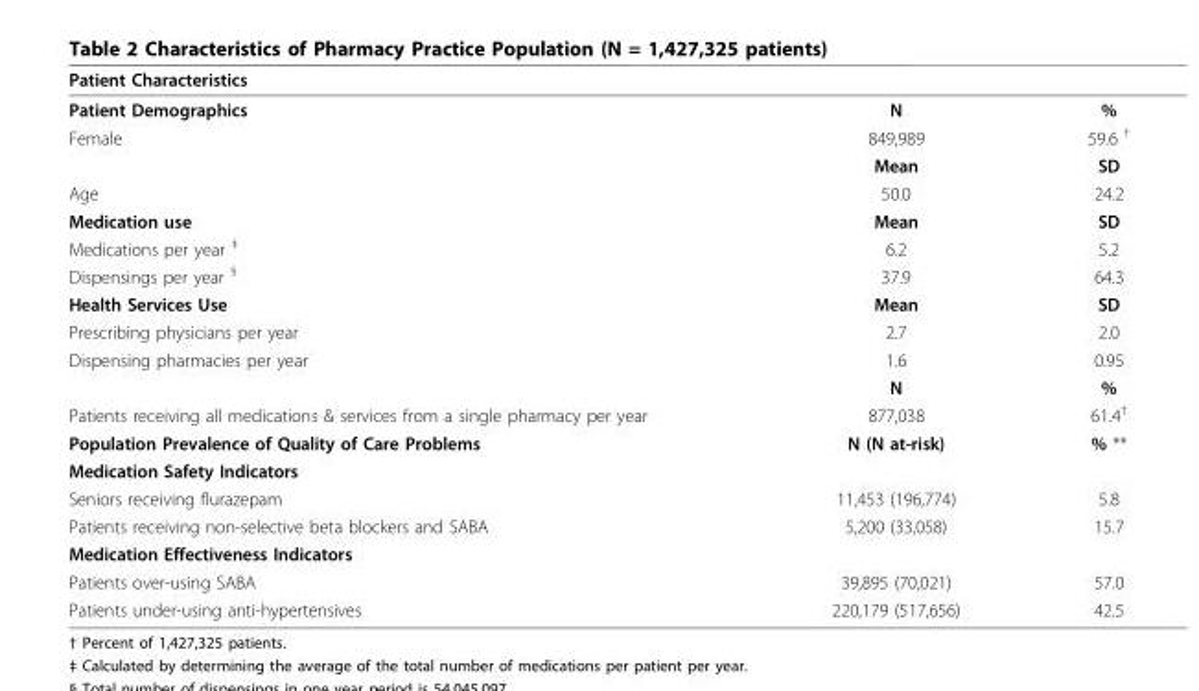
<table><thead><tr><td>Patient Characteristics</td><td></td><td></td></tr></thead><tbody><tr><td>Patient Demographics</td><td>N</td><td>%</td></tr><tr><td rowspan="2">Female</td><td>849,989</td><td>59.6 <sup>†</sup></td></tr><tr><td>Mean</td><td>SD</td></tr><tr><td>Age</td><td>50.0</td><td>24.2</td></tr><tr><td>Medication use</td><td>Mean</td><td>SD</td></tr><tr><td>Medications per year <sup>‡</sup></td><td>6.2</td><td>5.2</td></tr><tr><td>Dispensings per year <sup>§</sup></td><td>37.9</td><td>64.3</td></tr><tr><td>Health Services Use</td><td>Mean</td><td>SD</td></tr><tr><td>Prescribing physicians per year</td><td>2.7</td><td>2.0</td></tr><tr><td rowspan="2">Dispensing pharmacies per year</td><td>1.6</td><td>0.95</td></tr><tr><td>N</td><td>%</td></tr><tr><td>Patients receiving all medications &amp; services from a single pharmacy per year</td><td>877,038</td><td>61.4<sup>†</sup></td></tr><tr><td>Population Prevalence of Quality of Care Problems</td><td>N (N at-risk)</td><td>% **</td></tr><tr><td colspan="3">Medication Safety Indicators</td></tr><tr><td>Seniors receiving flurazepam</td><td>11,453 (196,774)</td><td>5.8</td></tr><tr><td>Patients receiving non-selective beta blockers and SABA</td><td>5,200 (33,058)</td><td>15.7</td></tr><tr><td colspan="3">Medication Effectiveness Indicators</td></tr><tr><td>Patients over-using SABA</td><td>39,895 (70,021)</td><td>57.0</td></tr><tr><td>Patients under-using anti-hypertensives</td><td>220,179 (517,656)</td><td>42.5</td></tr></tbody></table>